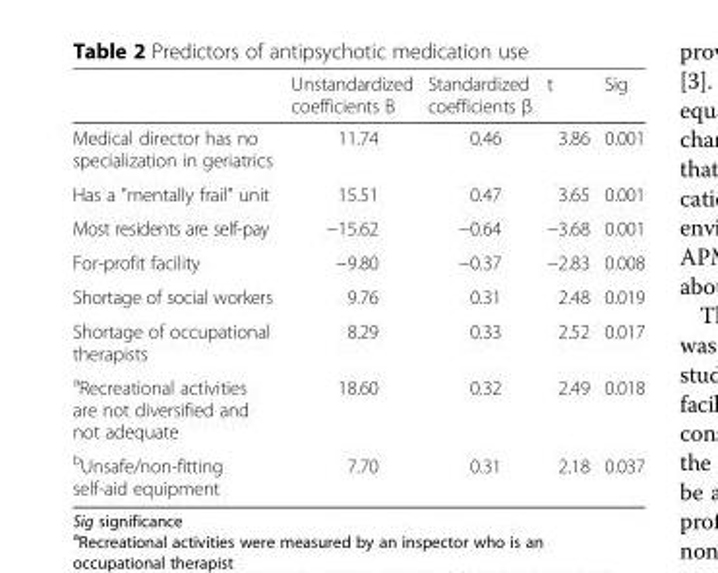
<table><thead><tr><td></td><td>Unstandardized coefficients B</td><td>Standardized coefficients β</td><td>t</td><td>Sig</td></tr></thead><tbody><tr><td>Medical director has no specialization in geriatrics</td><td>11.74</td><td>0.46</td><td>3.86</td><td>0.001</td></tr><tr><td>Has a &quot;mentally frail&quot; unit</td><td>15.51</td><td>0.47</td><td>3.65</td><td>0.001</td></tr><tr><td>Most residents are self-pay</td><td>−15.62</td><td>−0.64</td><td>−3.68</td><td>0.001</td></tr><tr><td>For-profit facility</td><td>−9.80</td><td>−0.37</td><td>−2.83</td><td>0.008</td></tr><tr><td>Shortage of social workers</td><td>9.76</td><td>0.31</td><td>2.48</td><td>0.019</td></tr><tr><td>Shortage of occupational therapists</td><td>8.29</td><td>0.33</td><td>2.52</td><td>0.017</td></tr><tr><td><sup>a</sup>Recreational activities are not diversified and not adequate</td><td>18.60</td><td>0.32</td><td>2.49</td><td>0.018</td></tr><tr><td><sup>b</sup>Unsafe/non-fitting self-aid equipment</td><td>7.70</td><td>0.31</td><td>2.18</td><td>0.037</td></tr></tbody></table>